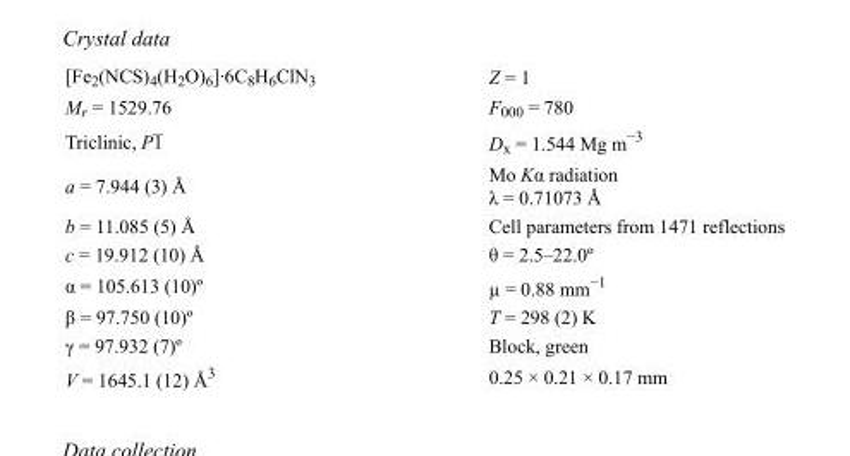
<table><tbody><tr><td>[Fe<sub>2</sub>(NCS)<sub>4</sub>(H<sub>2</sub>O)<sub>6</sub>]·6C<sub>8</sub>H<sub>6</sub>ClN<sub>3</sub></td><td>Z = 1</td></tr><tr><td>M<sub>r</sub> = 1529.76</td><td>F<sub>000</sub> = 780</td></tr><tr><td>Triclinic, P1</td><td>D<sub>x</sub> = 1.544 Mg m<sup>−3</sup></td></tr><tr><td>a = 7.944 (3) Å</td><td>Mo Kα radiation λ = 0.71073 Å</td></tr><tr><td>b = 11.085 (5) Å</td><td>Cell parameters from 1471 reflections</td></tr><tr><td>c = 19.912 (10) Å</td><td>θ = 2.5–22.0º</td></tr><tr><td>α = 105.613 (10)º</td><td>µ = 0.88 mm<sup>−1</sup></td></tr><tr><td>β = 97.750 (10)º</td><td>T = 298 (2) K</td></tr><tr><td>γ = 97.932 (7)º</td><td>Block, green</td></tr><tr><td>V = 1645.1 (12) Å<sup>3</sup></td><td>0.25 × 0.21 × 0.17 mm</td></tr></tbody></table>